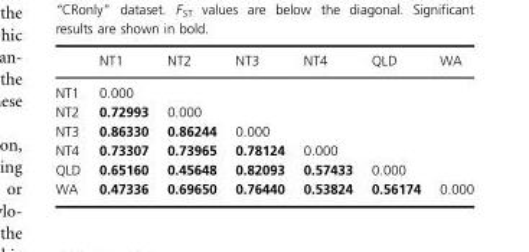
<table><thead><tr><td></td><td>NT1</td><td>NT2</td><td>NT3</td><td>NT4</td><td>QLD</td><td>WA</td></tr></thead><tbody><tr><td>NT1</td><td>0.000</td><td></td><td></td><td></td><td></td><td></td></tr><tr><td>NT2</td><td>0.72993</td><td>0.000</td><td></td><td></td><td></td><td></td></tr><tr><td>NT3</td><td>0.86330</td><td>0.86244</td><td>0.000</td><td></td><td></td><td></td></tr><tr><td>NT4</td><td>0.73307</td><td>0.73965</td><td>0.78124</td><td>0.000</td><td></td><td></td></tr><tr><td>QLD</td><td>0.65160</td><td>0.45648</td><td>0.82093</td><td>0.57433</td><td>0.000</td><td></td></tr><tr><td>WA</td><td>0.47336</td><td>0.69650</td><td>0.76440</td><td>0.53824</td><td>0.56174</td><td>0.000</td></tr></tbody></table>